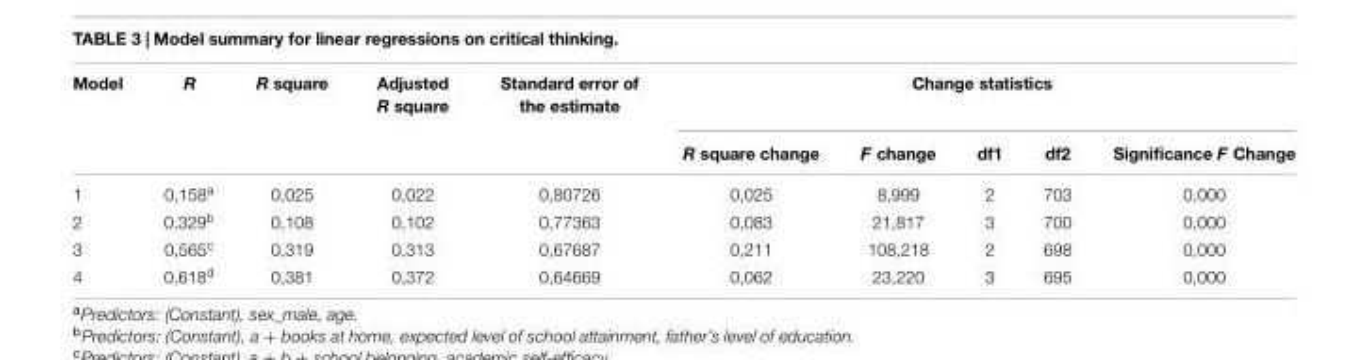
<table><thead><tr><td rowspan="2">Model</td><td rowspan="2">R</td><td rowspan="2">R square</td><td rowspan="2">Adjusted R square</td><td rowspan="2">Standard error of the estimate</td><td colspan="5">Change statistics</td></tr><tr><td>R square change</td><td>F change</td><td>df1</td><td>df2</td><td>Significance F Change</td></tr></thead><tbody><tr><td>1</td><td>0,158<sup>a</sup></td><td>0,025</td><td>0,022</td><td>0,80726</td><td>0,025</td><td>8,999</td><td>2</td><td>703</td><td>0,000</td></tr><tr><td>2</td><td>0,329<sup>b</sup></td><td>0,108</td><td>0,102</td><td>0,77363</td><td>0,083</td><td>21,817</td><td>3</td><td>700</td><td>0,000</td></tr><tr><td>3</td><td>0,565<sup>c</sup></td><td>0,319</td><td>0,313</td><td>0,67687</td><td>0,211</td><td>108,218</td><td>2</td><td>698</td><td>0,000</td></tr><tr><td>4</td><td>0,618<sup>d</sup></td><td>0,381</td><td>0,372</td><td>0,64669</td><td>0,062</td><td>23,220</td><td>3</td><td>695</td><td>0,000</td></tr></tbody></table>